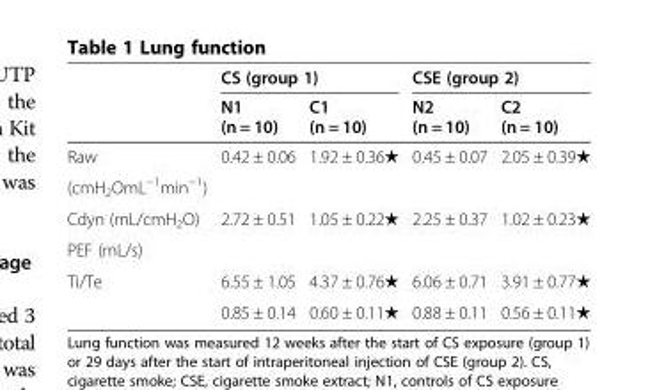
<table><thead><tr><td rowspan="2"></td><td colspan="2">CS (group 1)</td><td colspan="2">CSE (group 2)</td></tr><tr><td>N1 (n = 10)</td><td>C1 (n = 10)</td><td>N2 (n = 10)</td><td>C2 (n = 10)</td></tr></thead><tbody><tr><td>Raw</td><td>0.42 ± 0.06</td><td>1.92 ± 0.36★</td><td>0.45 ± 0.07</td><td>2.05 ± 0.39★</td></tr><tr><td colspan="5">(cmH<sub>2</sub>OmL<sup>−1</sup>min<sup>−1</sup>)</td></tr><tr><td>Cdyn (mL/cmH<sub>2</sub>O)</td><td>2.72 ± 0.51</td><td>1.05 ± 0.22★</td><td>2.25 ± 0.37</td><td>1.02 ± 0.23★</td></tr><tr><td colspan="5">PEF (mL/s)</td></tr><tr><td rowspan="2">Ti/Te</td><td>6.55 ± 1.05</td><td>4.37 ± 0.76★</td><td>6.06 ± 0.71</td><td>3.91 ± 0.77★</td></tr><tr><td>0.85 ± 0.14</td><td>0.60 ± 0.11★</td><td>0.88 ± 0.11</td><td>0.56 ± 0.11★</td></tr></tbody></table>